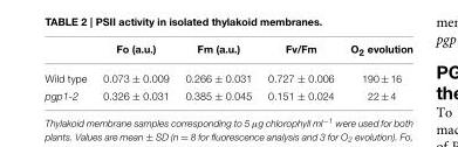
<table><thead><tr><td></td><td>Fo (a.u.)</td><td>Fm (a.u.)</td><td>Fv/Fm</td><td>O<sub>2</sub> evolution</td></tr></thead><tbody><tr><td>Wild type</td><td>0.073 ± 0.009</td><td>0.266 ± 0.031</td><td>0.727 ± 0.006</td><td>190 ± 16</td></tr><tr><td>pgp1-2</td><td>0.326 ± 0.031</td><td>0.385 ± 0.045</td><td>0.151 ± 0.024</td><td>22 ± 4</td></tr></tbody></table>